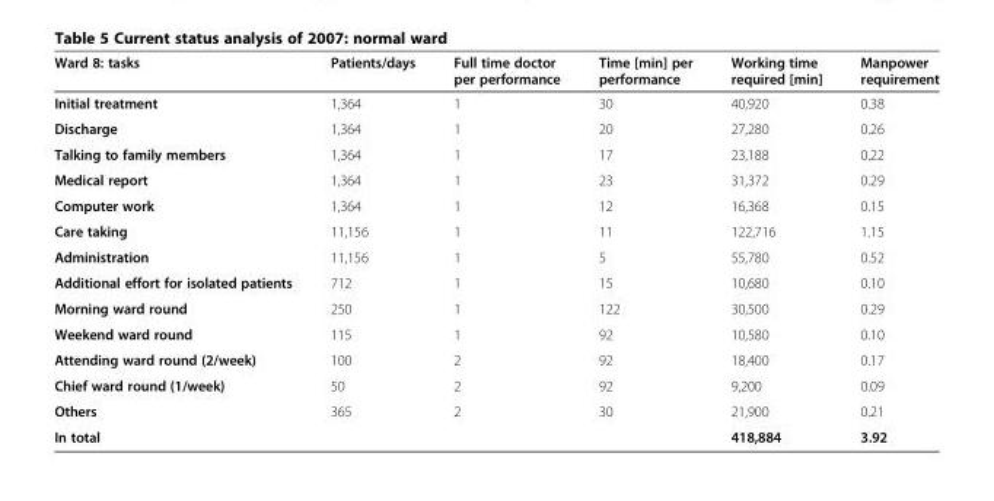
<table><thead><tr><td>Ward 8: tasks</td><td>Patients/days</td><td>Full time doctor per performance</td><td>Time [min] per performance</td><td>Working time required [min]</td><td>Manpower requirement</td></tr></thead><tbody><tr><td>Initial treatment</td><td>1,364</td><td>1</td><td>30</td><td>40,920</td><td>0.38</td></tr><tr><td>Discharge</td><td>1,364</td><td>1</td><td>20</td><td>27,280</td><td>0.26</td></tr><tr><td>Talking to family members</td><td>1,364</td><td>1</td><td>17</td><td>23,188</td><td>0.22</td></tr><tr><td>Medical report</td><td>1,364</td><td>1</td><td>23</td><td>31,372</td><td>0.29</td></tr><tr><td>Computer work</td><td>1,364</td><td>1</td><td>12</td><td>16,368</td><td>0.15</td></tr><tr><td>Care taking</td><td>11,156</td><td>1</td><td>11</td><td>122,716</td><td>1.15</td></tr><tr><td>Administration</td><td>11,156</td><td>1</td><td>5</td><td>55,780</td><td>0.52</td></tr><tr><td>Additional effort for isolated patients</td><td>712</td><td>1</td><td>15</td><td>10,680</td><td>0.10</td></tr><tr><td>Morning ward round</td><td>250</td><td>1</td><td>122</td><td>30,500</td><td>0.29</td></tr><tr><td>Weekend ward round</td><td>115</td><td>1</td><td>92</td><td>10,580</td><td>0.10</td></tr><tr><td>Attending ward round (2/week)</td><td>100</td><td>2</td><td>92</td><td>18,400</td><td>0.17</td></tr><tr><td>Chief ward round (1/week)</td><td>50</td><td>2</td><td>92</td><td>9,200</td><td>0.09</td></tr><tr><td>Others</td><td>365</td><td>2</td><td>30</td><td>21,900</td><td>0.21</td></tr><tr><td colspan="4">In total</td><td>418,884</td><td>3.92</td></tr></tbody></table>